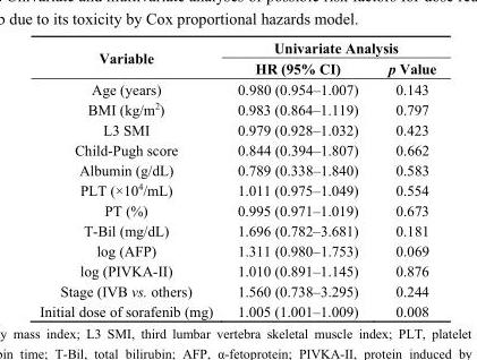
<table><thead><tr><td rowspan="2">Variable</td><td colspan="2">Univariate Analysis</td></tr><tr><td>HR (95% CI)</td><td>p Value</td></tr></thead><tbody><tr><td>Age (years)</td><td>0.980 (0.954–1.007)</td><td>0.143</td></tr><tr><td>BMI (kg/m<sup>2</sup>)</td><td>0.983 (0.864–1.119)</td><td>0.797</td></tr><tr><td>L3 SMI</td><td>0.979 (0.928–1.032)</td><td>0.423</td></tr><tr><td>Child-Pugh score</td><td>0.844 (0.394–1.807)</td><td>0.662</td></tr><tr><td>Albumin (g/dL)</td><td>0.789 (0.338–1.840)</td><td>0.583</td></tr><tr><td>PLT (×10<sup>4</sup>/mL)</td><td>1.011 (0.975–1.049)</td><td>0.554</td></tr><tr><td>PT (%)</td><td>0.995 (0.971–1.019)</td><td>0.673</td></tr><tr><td>T-Bil (mg/dL)</td><td>1.696 (0.782–3.681)</td><td>0.181</td></tr><tr><td>log (AFP)</td><td>1.311 (0.980–1.753)</td><td>0.069</td></tr><tr><td>log (PIVKA-II)</td><td>1.010 (0.891–1.145)</td><td>0.876</td></tr><tr><td>Stage (IVB vs. others)</td><td>1.560 (0.738–3.295)</td><td>0.244</td></tr><tr><td>Initial dose of sorafenib (mg)</td><td>1.005 (1.001–1.009)</td><td>0.008</td></tr></tbody></table>